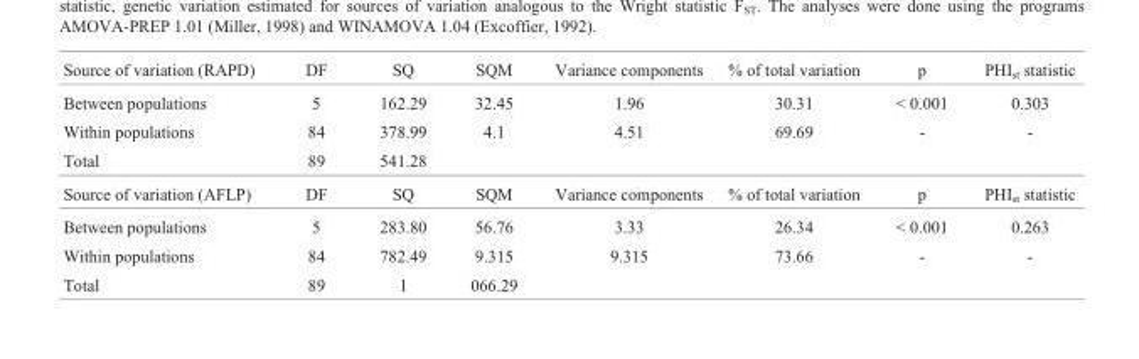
<table><thead><tr><td>Source of variation (RAPD)</td><td>DF</td><td>SQ</td><td>SQM</td><td>Variance components</td><td>% of total variation</td><td>p</td><td>PHI<sub>st</sub> statistic</td></tr></thead><tbody><tr><td>Between populations</td><td>5</td><td>162.29</td><td>32.45</td><td>1.96</td><td>30.31</td><td>&lt; 0.001</td><td>0.303</td></tr><tr><td>Within populations</td><td>84</td><td>378.99</td><td>4.1</td><td>4.51</td><td>69.69</td><td>-</td><td>-</td></tr><tr><td>Total</td><td>89</td><td>541.28</td><td></td><td></td><td></td><td></td><td></td></tr><tr><td>Source of variation (AFLP)</td><td>DF</td><td>SQ</td><td>SQM</td><td>Variance components</td><td>% of total variation</td><td>p</td><td>PHI<sub>st</sub> statistic</td></tr><tr><td>Between populations</td><td>5</td><td>283.80</td><td>56.76</td><td>3.33</td><td>26.34</td><td>&lt; 0.001</td><td>0.263</td></tr><tr><td>Within populations</td><td>84</td><td>782.49</td><td>9.315</td><td>9.315</td><td>73.66</td><td>-</td><td>-</td></tr><tr><td>Total</td><td>89</td><td>1</td><td>066.29</td><td></td><td></td><td></td><td></td></tr></tbody></table>